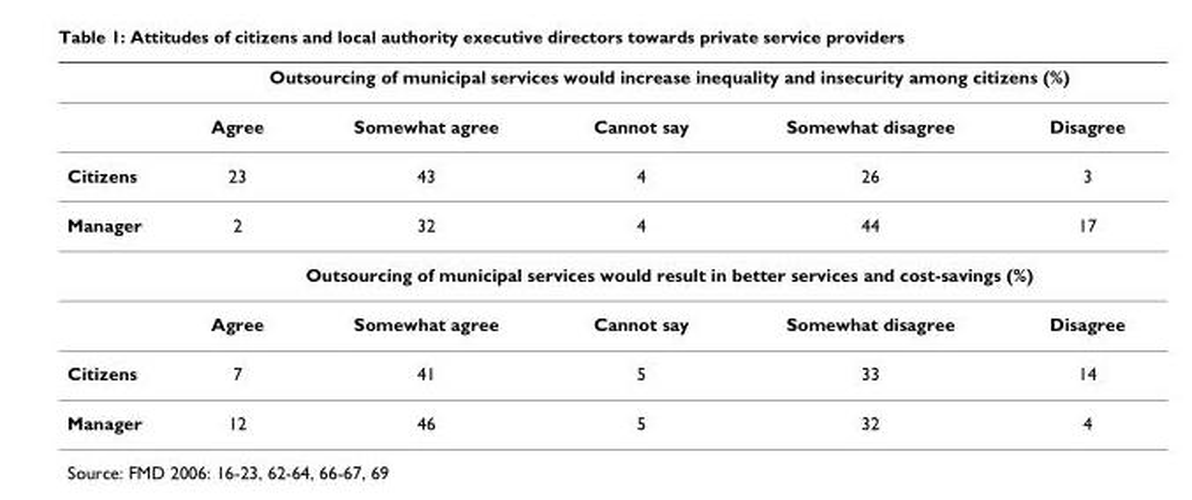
<table><thead><tr><td rowspan="2"></td><td colspan="5">Outsourcing of municipal services would increase inequality and insecurity among citizens (%)</td></tr><tr><td>Agree</td><td>Somewhat agree</td><td>Cannot say</td><td>Somewhat disagree</td><td>Disagree</td></tr></thead><tbody><tr><td>Citizens</td><td>23</td><td>43</td><td>4</td><td>26</td><td>3</td></tr><tr><td rowspan="3">Manager</td><td>2</td><td>32</td><td>4</td><td>44</td><td>17</td></tr><tr><td colspan="5">Outsourcing of municipal services would result in better services and cost-savings (%)</td></tr><tr><td>Agree</td><td>Somewhat agree</td><td>Cannot say</td><td>Somewhat disagree</td><td>Disagree</td></tr><tr><td>Citizens</td><td>7</td><td>41</td><td>5</td><td>33</td><td>14</td></tr><tr><td>Manager</td><td>12</td><td>46</td><td>5</td><td>32</td><td>4</td></tr></tbody></table>